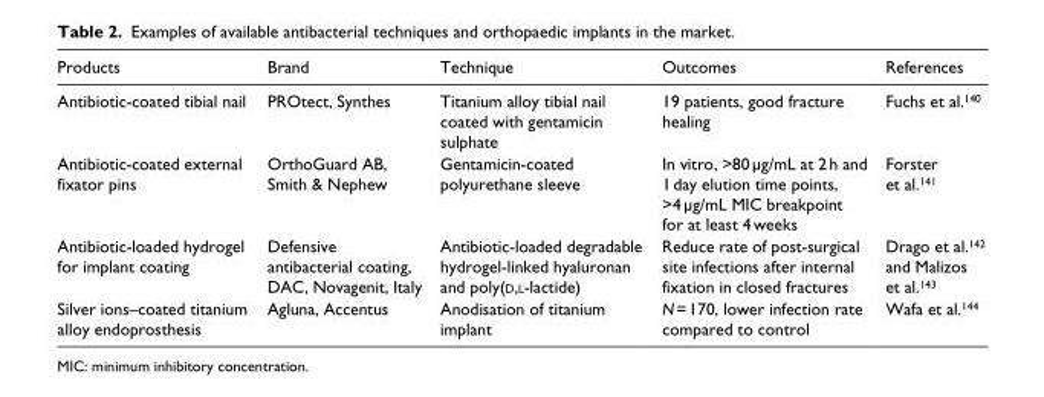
<table><thead><tr><td>Products</td><td>Brand</td><td>Technique</td><td>Outcomes</td><td>References</td></tr></thead><tbody><tr><td>Antibiotic-coated tibial nail</td><td>PROtect, Synthes</td><td>Titanium alloy tibial nail coated with gentamicin sulphate</td><td>19 patients, good fracture healing</td><td>Fuchs et al.<sup>140</sup></td></tr><tr><td>Antibiotic-coated external fixator pins</td><td>OrthoGuard AB, Smith &amp; Nephew</td><td>Gentamicin-coated polyurethane sleeve</td><td>In vitro, &gt;80 µg/mL at 2 h and 1 day elution time points, &gt;4 µg/mL MIC breakpoint for at least 4 weeks</td><td>Forster et al.<sup>141</sup></td></tr><tr><td>Antibiotic-loaded hydrogel for implant coating</td><td>Defensive antibacterial coating, DAC, Novagenit, Italy</td><td>Antibiotic-loaded degradable hydrogel-linked hyaluronan and poly(d,l-lactide)</td><td>Reduce rate of post-surgical site infections after internal fixation in closed fractures</td><td>Drago et al.<sup>142</sup> and Malizos et al.<sup>143</sup></td></tr><tr><td>Silver ions–coated titanium alloy endoprosthesis</td><td>Agluna, Accentus</td><td>Anodisation of titanium implant</td><td>N = 170, lower infection rate compared to control</td><td>Wafa et al.<sup>144</sup></td></tr></tbody></table>